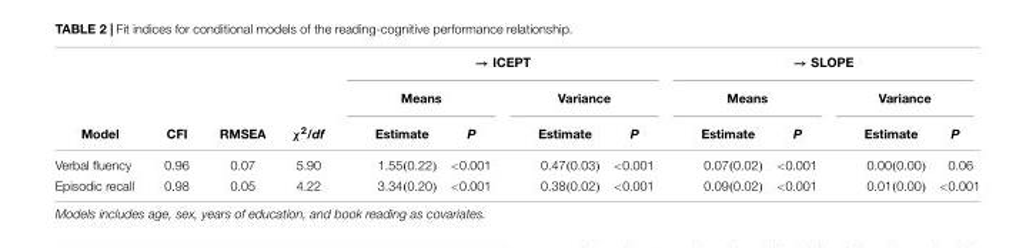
<table><thead><tr><td rowspan="3">Model</td><td rowspan="3">CFI</td><td rowspan="3">RMSEA</td><td rowspan="3">χ<sup>2</sup>/df</td><td colspan="4">→ ICEPT</td><td colspan="4">→ SLOPE</td></tr><tr><td colspan="2">Means</td><td colspan="2">Variance</td><td colspan="2">Means</td><td colspan="2">Variance</td></tr><tr><td>Estimate</td><td>P</td><td>Estimate</td><td>P</td><td>Estimate</td><td>P</td><td>Estimate</td><td>P</td></tr></thead><tbody><tr><td>Verbal fluency</td><td>0.96</td><td>0.07</td><td>5.90</td><td>1.55(0.22)</td><td>&lt;0.001</td><td>0.47(0.03)</td><td>&lt;0.001</td><td>0.07(0.02)</td><td>&lt;0.001</td><td>0.00(0.00)</td><td>0.06</td></tr><tr><td>Episodic recall</td><td>0.98</td><td>0.05</td><td>4.22</td><td>3.34(0.20)</td><td>&lt;0.001</td><td>0.38(0.02)</td><td>&lt;0.001</td><td>0.09(0.02)</td><td>&lt;0.001</td><td>0.01(0.00)</td><td>&lt;0.001</td></tr></tbody></table>